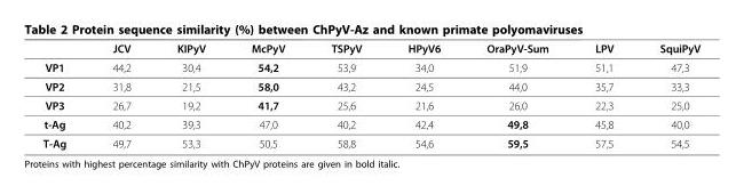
<table><thead><tr><td></td><td>JCV</td><td>KIPyV</td><td>McPyV</td><td>TSPyV</td><td>HPyV6</td><td>OraPyV-Sum</td><td>LPV</td><td>SquiPyV</td></tr></thead><tbody><tr><td>VP1</td><td>44,2</td><td>30,4</td><td>54,2</td><td>53,9</td><td>34,0</td><td>51,9</td><td>51,1</td><td>47,3</td></tr><tr><td>VP2</td><td>31,8</td><td>21,5</td><td>58,0</td><td>43,2</td><td>24,5</td><td>44,0</td><td>35,7</td><td>33,3</td></tr><tr><td>VP3</td><td>26,7</td><td>19,2</td><td>41,7</td><td>25,6</td><td>21,6</td><td>26,0</td><td>22,3</td><td>25,0</td></tr><tr><td>t-Ag</td><td>40,2</td><td>39,3</td><td>47,0</td><td>40,2</td><td>42,4</td><td>49,8</td><td>45,8</td><td>40,0</td></tr><tr><td>T-Ag</td><td>49,7</td><td>53,3</td><td>50,5</td><td>58,8</td><td>54,6</td><td>59,5</td><td>57,5</td><td>54,5</td></tr></tbody></table>